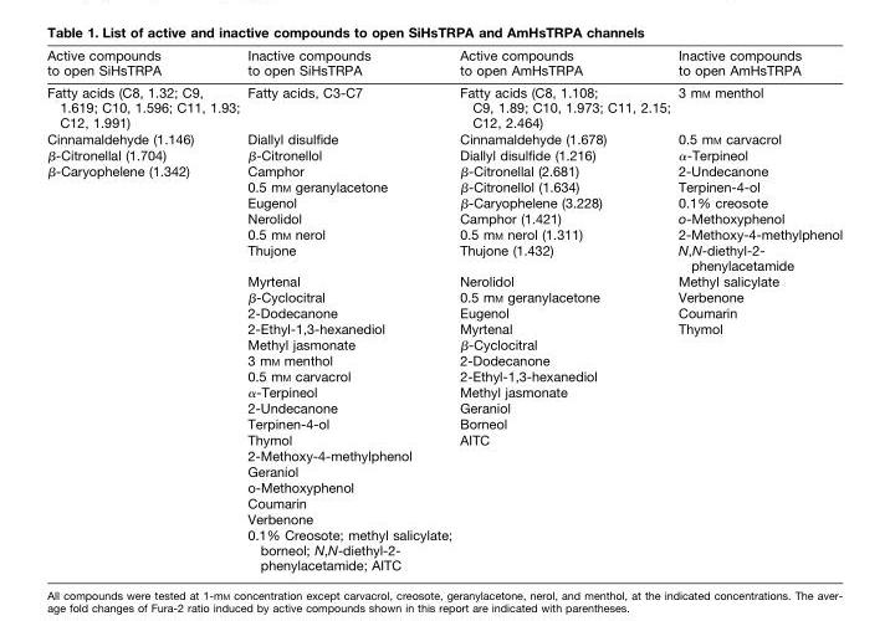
<table><thead><tr><td>Active compounds to open SiHsTRPA</td><td>Inactive compounds to open SiHsTRPA</td><td>Active compounds to open AmHsTRPA</td><td>Inactive compounds to open AmHsTRPA</td></tr></thead><tbody><tr><td>Fatty acids (C8, 1.32; C9, 1.619; C10, 1.596; C11, 1.93; C12, 1.991)</td><td>Fatty acids, C3-C7</td><td>Fatty acids (C8, 1.108; C9, 1.89; C10, 1.973; C11, 2.15; C12, 2.464)</td><td>3 mM menthol</td></tr><tr><td>Cinnamaldehyde (1.146)</td><td>Diallyl disulfide</td><td>Cinnamaldehyde (1.678)</td><td>0.5 mM carvacrol</td></tr><tr><td>β-Citronellal (1.704)</td><td>β-Citronellol</td><td>Diallyl disulfide (1.216)</td><td>α-Terpineol</td></tr><tr><td rowspan="23">β-Caryophelene (1.342)</td><td>Camphor</td><td>β-Citronellal (2.681)</td><td>2-Undecanone</td></tr><tr><td>0.5 mM geranylacetone</td><td>β-Citronellol (1.634)</td><td>Terpinen-4-ol</td></tr><tr><td>Eugenol</td><td>β-Caryophelene (3.228)</td><td>0.1% creosote</td></tr><tr><td>Nerolidol</td><td>Camphor (1.421)</td><td>o-Methoxyphenol</td></tr><tr><td>0.5 mM nerol</td><td>0.5 mM nerol (1.311)</td><td>2-Methoxy-4-methylphenol</td></tr><tr><td>Thujone</td><td>Thujone (1.432)</td><td>N,N-diethyl-2- phenylacetamide</td></tr><tr><td>Myrtenal</td><td>Nerolidol</td><td>Methyl salicylate</td></tr><tr><td>β-Cyclocitral</td><td>0.5 mM geranylacetone</td><td>Verbenone</td></tr><tr><td>2-Dodecanone</td><td>Eugenol</td><td>Coumarin</td></tr><tr><td>2-Ethyl-1,3-hexanediol</td><td>Myrtenal</td><td>Thymol</td></tr><tr><td>Methyl jasmonate</td><td>β-Cyclocitral</td><td></td></tr><tr><td>3 mM menthol</td><td>2-Dodecanone</td><td></td></tr><tr><td>0.5 mM carvacrol</td><td>2-Ethyl-1,3-hexanediol</td><td></td></tr><tr><td>α-Terpineol</td><td>Methyl jasmonate</td><td></td></tr><tr><td>2-Undecanone</td><td>Geraniol</td><td></td></tr><tr><td>Terpinen-4-ol</td><td>Borneol</td><td></td></tr><tr><td>Thymol</td><td>AITC</td><td></td></tr><tr><td>2-Methoxy-4-methylphenol</td><td></td><td></td></tr><tr><td>Geraniol</td><td></td><td></td></tr><tr><td>o-Methoxyphenol</td><td></td><td></td></tr><tr><td>Coumarin</td><td></td><td></td></tr><tr><td>Verbenone</td><td></td><td></td></tr><tr><td>0.1% Creosote; methyl salicylate; borneol; N,N-diethyl-2- phenylacetamide; AITC</td><td></td><td></td></tr></tbody></table>